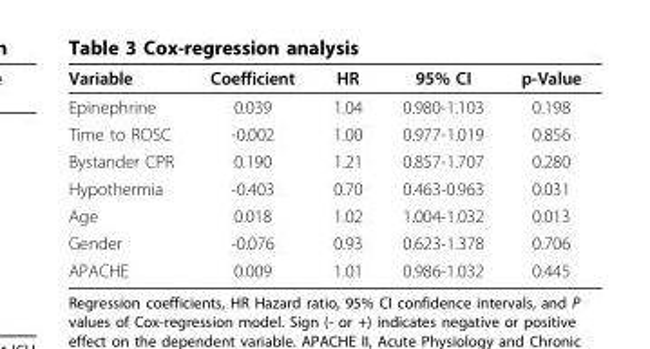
<table><thead><tr><td>Variable</td><td>Coefficient</td><td>HR</td><td>95% CI</td><td>p-Value</td></tr></thead><tbody><tr><td>Epinephrine</td><td>0.039</td><td>1.04</td><td>0.980-1.103</td><td>0.198</td></tr><tr><td>Time to ROSC</td><td>-0.002</td><td>1.00</td><td>0.977-1.019</td><td>0.856</td></tr><tr><td>Bystander CPR</td><td>0.190</td><td>1.21</td><td>0.857-1.707</td><td>0.280</td></tr><tr><td>Hypothermia</td><td>-0.403</td><td>0.70</td><td>0.463-0.963</td><td>0.031</td></tr><tr><td>Age</td><td>0.018</td><td>1.02</td><td>1.004-1.032</td><td>0.013</td></tr><tr><td>Gender</td><td>-0.076</td><td>0.93</td><td>0.623-1.378</td><td>0.706</td></tr><tr><td>APACHE</td><td>0.009</td><td>1.01</td><td>0.986-1.032</td><td>0.445</td></tr></tbody></table>